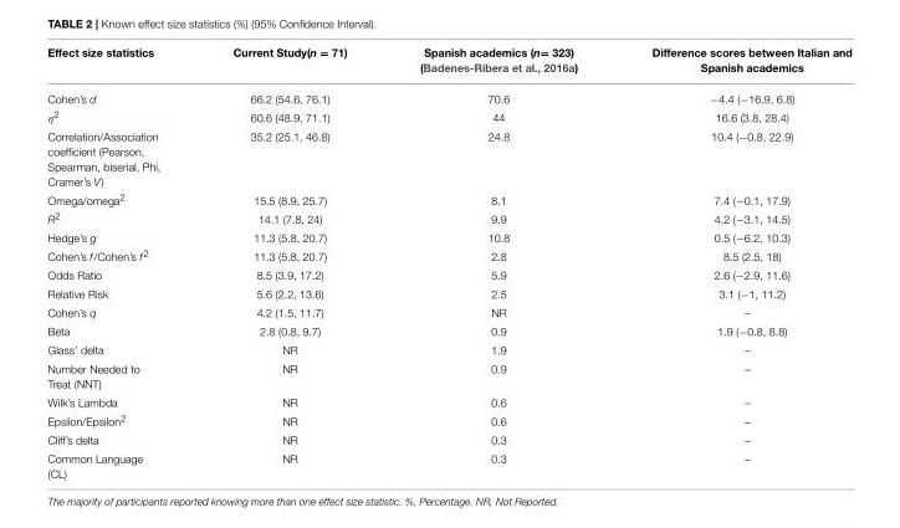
<table><thead><tr><td>Effect size statistics</td><td>Current Study(n = 71)</td><td>Spanish academics (n= 323) (Badenes-Ribera et al., 2016a)</td><td>Difference scores between Italian and Spanish academics</td></tr></thead><tbody><tr><td>Cohen’s d</td><td>66.2 (54.6, 76.1)</td><td>70.6</td><td>−4.4 (−16.9, 6.8)</td></tr><tr><td>η<sup>2</sup></td><td>60.6 (48.9, 71.1)</td><td>44</td><td>16.6 (3.8, 28.4)</td></tr><tr><td>Correlation/Association coefficient (Pearson, Spearman, biserial, Phi, Cramer’s V)</td><td>35.2 (25.1, 46.8)</td><td>24.8</td><td>10.4 (−0.8, 22.9)</td></tr><tr><td>Omega/omega<sup>2</sup></td><td>15.5 (8.9, 25.7)</td><td>8.1</td><td>7.4 (−0.1, 17.9)</td></tr><tr><td>R<sup>2</sup></td><td>14.1 (7.8, 24)</td><td>9.9</td><td>4.2 (−3.1, 14.5)</td></tr><tr><td>Hedge’s g</td><td>11.3 (5.8, 20.7)</td><td>10.8</td><td>0.5 (−6.2, 10.3)</td></tr><tr><td>Cohen’s f/Cohen’s f<sup>2</sup></td><td>11.3 (5.8, 20.7)</td><td>2.8</td><td>8.5 (2.5, 18)</td></tr><tr><td>Odds Ratio</td><td>8.5 (3.9, 17.2)</td><td>5.9</td><td>2.6 (−2.9, 11.6)</td></tr><tr><td>Relative Risk</td><td>5.6 (2.2, 13.6)</td><td>2.5</td><td>3.1 (−1, 11.2)</td></tr><tr><td>Cohen’s q</td><td>4.2 (1.5, 11.7)</td><td>NR</td><td>–</td></tr><tr><td>Beta</td><td>2.8 (0.8, 9.7)</td><td>0.9</td><td>1.9 (−0.8, 8.8)</td></tr><tr><td>Glass’ delta</td><td>NR</td><td>1.9</td><td>–</td></tr><tr><td>Number Needed to Treat (NNT)</td><td>NR</td><td>0.9</td><td>–</td></tr><tr><td>Wilk’s Lambda</td><td>NR</td><td>0.6</td><td>–</td></tr><tr><td>Epsilon/Epsilon<sup>2</sup></td><td>NR</td><td>0.6</td><td>–</td></tr><tr><td>Cliff’s delta</td><td>NR</td><td>0.3</td><td>–</td></tr><tr><td>Common Language (CL)</td><td>NR</td><td>0.3</td><td>–</td></tr></tbody></table>